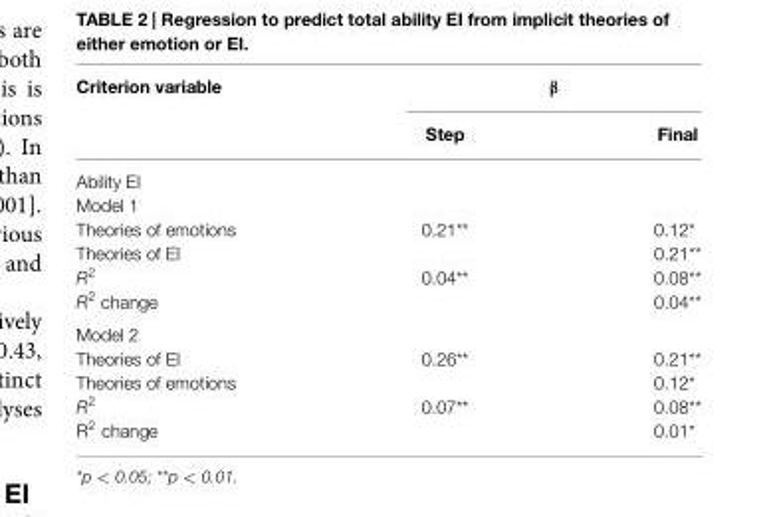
<table><thead><tr><td rowspan="2">Criterion variable</td><td colspan="2">β</td></tr><tr><td>Step</td><td>Final</td></tr></thead><tbody><tr><td colspan="3">Ability EI</td></tr><tr><td colspan="3">Model 1</td></tr><tr><td>Theories of emotions</td><td>0.21**</td><td>0.12*</td></tr><tr><td>Theories of EI</td><td></td><td>0.21**</td></tr><tr><td>R<sup>2</sup></td><td>0.04**</td><td>0.08**</td></tr><tr><td>R<sup>2</sup> change</td><td></td><td>0.04**</td></tr><tr><td colspan="3">Model 2</td></tr><tr><td>Theories of EI</td><td>0.26**</td><td>0.21**</td></tr><tr><td>Theories of emotions</td><td></td><td>0.12*</td></tr><tr><td>R<sup>2</sup></td><td>0.07**</td><td>0.08**</td></tr><tr><td>R<sup>2</sup> change</td><td></td><td>0.01*</td></tr></tbody></table>